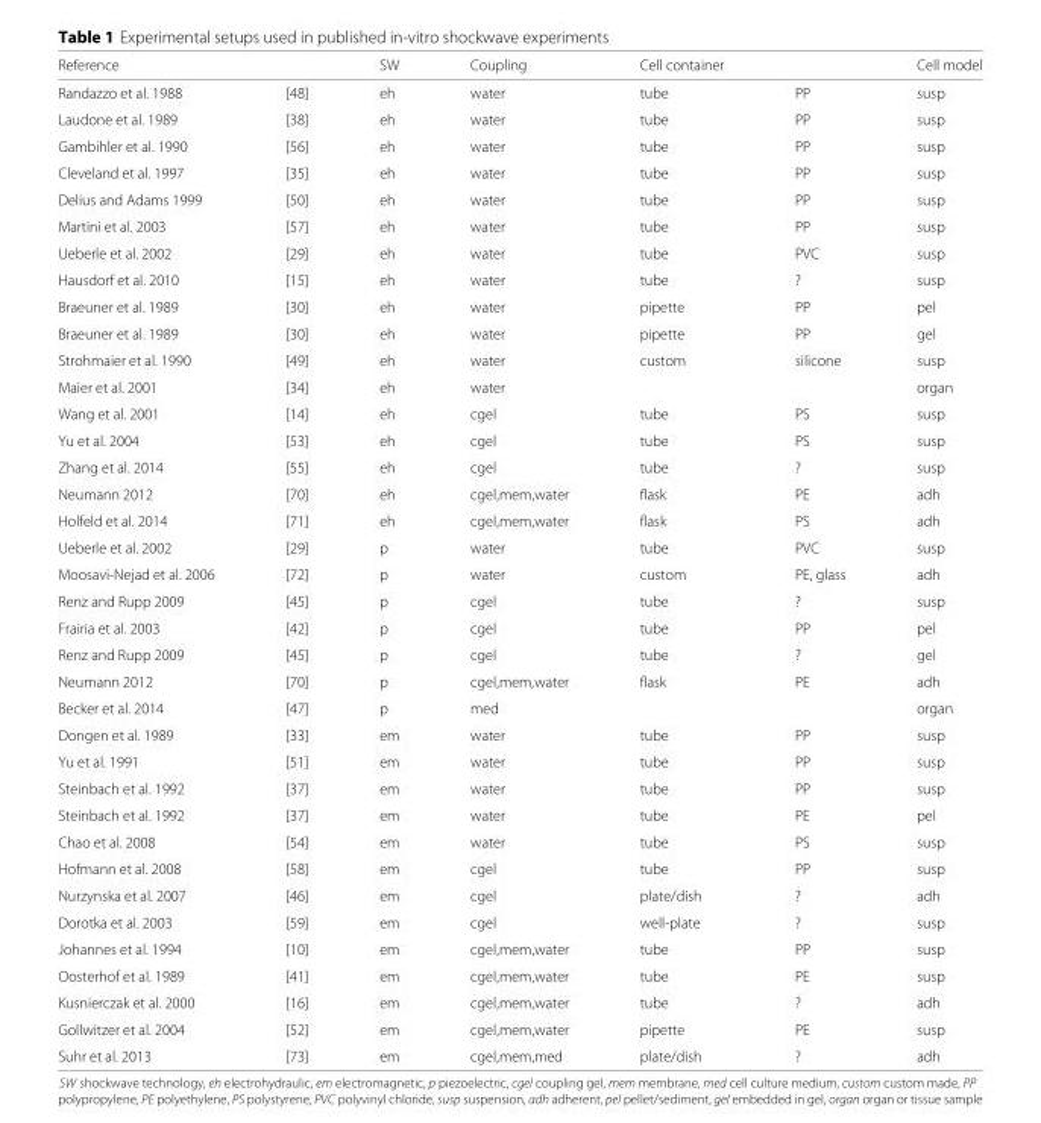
<table><thead><tr><td>Reference</td><td></td><td>SW</td><td>Coupling</td><td>Cell container</td><td></td><td>Cell model</td></tr></thead><tbody><tr><td>Randazzo et al. 1988</td><td>[48]</td><td>eh</td><td>water</td><td>tube</td><td>PP</td><td>susp</td></tr><tr><td>Laudone et al. 1989</td><td>[38]</td><td>eh</td><td>water</td><td>tube</td><td>PP</td><td>susp</td></tr><tr><td>Gambihler et al. 1990</td><td>[56]</td><td>eh</td><td>water</td><td>tube</td><td>PP</td><td>susp</td></tr><tr><td>Cleveland et al. 1997</td><td>[35]</td><td>eh</td><td>water</td><td>tube</td><td>PP</td><td>susp</td></tr><tr><td>Delius and Adams 1999</td><td>[50]</td><td>eh</td><td>water</td><td>tube</td><td>PP</td><td>susp</td></tr><tr><td>Martini et al. 2003</td><td>[57]</td><td>eh</td><td>water</td><td>tube</td><td>PP</td><td>susp</td></tr><tr><td>Ueberle et al. 2002</td><td>[29]</td><td>eh</td><td>water</td><td>tube</td><td>PVC</td><td>susp</td></tr><tr><td>Hausdorf et al. 2010</td><td>[15]</td><td>eh</td><td>water</td><td>tube</td><td>?</td><td>susp</td></tr><tr><td>Braeuner et al. 1989</td><td>[30]</td><td>eh</td><td>water</td><td>pipette</td><td>PP</td><td>pel</td></tr><tr><td>Braeuner et al. 1989</td><td>[30]</td><td>eh</td><td>water</td><td>pipette</td><td>PP</td><td>gel</td></tr><tr><td>Strohmaier et al. 1990</td><td>[49]</td><td>eh</td><td>water</td><td>custom</td><td>silicone</td><td>susp</td></tr><tr><td>Maier et al. 2001</td><td>[34]</td><td>eh</td><td>water</td><td></td><td></td><td>organ</td></tr><tr><td>Wang et al. 2001</td><td>[14]</td><td>eh</td><td>cgel</td><td>tube</td><td>PS</td><td>susp</td></tr><tr><td>Yu et al. 2004</td><td>[53]</td><td>eh</td><td>cgel</td><td>tube</td><td>PS</td><td>susp</td></tr><tr><td>Zhang et al. 2014</td><td>[55]</td><td>eh</td><td>cgel</td><td>tube</td><td>?</td><td>susp</td></tr><tr><td>Neumann 2012</td><td>[70]</td><td>eh</td><td>cgel,mem,water</td><td>flask</td><td>PE</td><td>adh</td></tr><tr><td>Holfeld et al. 2014</td><td>[71]</td><td>eh</td><td>cgel,mem,water</td><td>flask</td><td>PS</td><td>adh</td></tr><tr><td>Ueberle et al. 2002</td><td>[29]</td><td>p</td><td>water</td><td>tube</td><td>PVC</td><td>susp</td></tr><tr><td>Moosavi-Nejad et al. 2006</td><td>[72]</td><td>p</td><td>water</td><td>custom</td><td>PE, glass</td><td>adh</td></tr><tr><td>Renz and Rupp 2009</td><td>[45]</td><td>p</td><td>cgel</td><td>tube</td><td>?</td><td>susp</td></tr><tr><td>Frairia et al. 2003</td><td>[42]</td><td>p</td><td>cgel</td><td>tube</td><td>PP</td><td>pel</td></tr><tr><td>Renz and Rupp 2009</td><td>[45]</td><td>p</td><td>cgel</td><td>tube</td><td>?</td><td>gel</td></tr><tr><td>Neumann 2012</td><td>[70]</td><td>p</td><td>cgel,mem,water</td><td>flask</td><td>PE</td><td>adh</td></tr><tr><td>Becker et al. 2014</td><td>[47]</td><td>p</td><td>med</td><td></td><td></td><td>organ</td></tr><tr><td>Dongen et al. 1989</td><td>[33]</td><td>em</td><td>water</td><td>tube</td><td>PP</td><td>susp</td></tr><tr><td>Yu et al. 1991</td><td>[51]</td><td>em</td><td>water</td><td>tube</td><td>PP</td><td>susp</td></tr><tr><td>Steinbach et al. 1992</td><td>[37]</td><td>em</td><td>water</td><td>tube</td><td>PP</td><td>susp</td></tr><tr><td>Steinbach et al. 1992</td><td>[37]</td><td>em</td><td>water</td><td>tube</td><td>PE</td><td>pel</td></tr><tr><td>Chao et al. 2008</td><td>[54]</td><td>em</td><td>water</td><td>tube</td><td>PS</td><td>susp</td></tr><tr><td>Hofmann et al. 2008</td><td>[58]</td><td>em</td><td>cgel</td><td>tube</td><td>PP</td><td>susp</td></tr><tr><td>Nurzynska et al. 2007</td><td>[46]</td><td>em</td><td>cgel</td><td>plate/dish</td><td>?</td><td>adh</td></tr><tr><td>Dorotka et al. 2003</td><td>[59]</td><td>em</td><td>cgel</td><td>well-plate</td><td>?</td><td>susp</td></tr><tr><td>Johannes et al. 1994</td><td>[10]</td><td>em</td><td>cgel,mem,water</td><td>tube</td><td>PP</td><td>susp</td></tr><tr><td>Oosterhof et al. 1989</td><td>[41]</td><td>em</td><td>cgel,mem,water</td><td>tube</td><td>PE</td><td>susp</td></tr><tr><td>Kusnierczak et al. 2000</td><td>[16]</td><td>em</td><td>cgel,mem,water</td><td>tube</td><td>?</td><td>adh</td></tr><tr><td>Gollwitzer et al. 2004</td><td>[52]</td><td>em</td><td>cgel,mem,water</td><td>pipette</td><td>PE</td><td>susp</td></tr><tr><td>Suhr et al. 2013</td><td>[73]</td><td>em</td><td>cgel,mem,med</td><td>plate/dish</td><td>?</td><td>adh</td></tr></tbody></table>